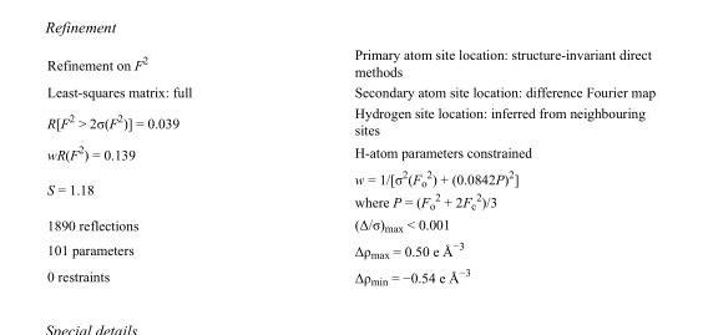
<table><tbody><tr><td>Refinement on F<sup>2</sup></td><td>Primary atom site location: structure-invariant direct methods</td></tr><tr><td>Least-squares matrix: full</td><td>Secondary atom site location: difference Fourier map</td></tr><tr><td>R[F<sup>2</sup> &gt; 2σ(F<sup>2</sup>)] = 0.039</td><td>Hydrogen site location: inferred from neighbouring sites</td></tr><tr><td>wR(F<sup>2</sup>) = 0.139</td><td>H-atom parameters constrained</td></tr><tr><td>S = 1.18</td><td>w = 1/[σ<sup>2</sup>(F<sub>o</sub> <sup>2</sup>) + (0.0842P)<sup>2</sup>] where P = (F<sub>o</sub> <sup>2</sup> + 2F<sub>c</sub> <sup>2</sup>)/3</td></tr><tr><td>1890 reflections</td><td>(Δ/σ)<sub>max</sub> &lt; 0.001</td></tr><tr><td>101 parameters</td><td>Δρ<sub>max</sub> = 0.50 e Å<sup>−3</sup></td></tr><tr><td>0 restraints</td><td>Δρ<sub>min</sub> = −0.54 e Å<sup>−3</sup></td></tr></tbody></table>